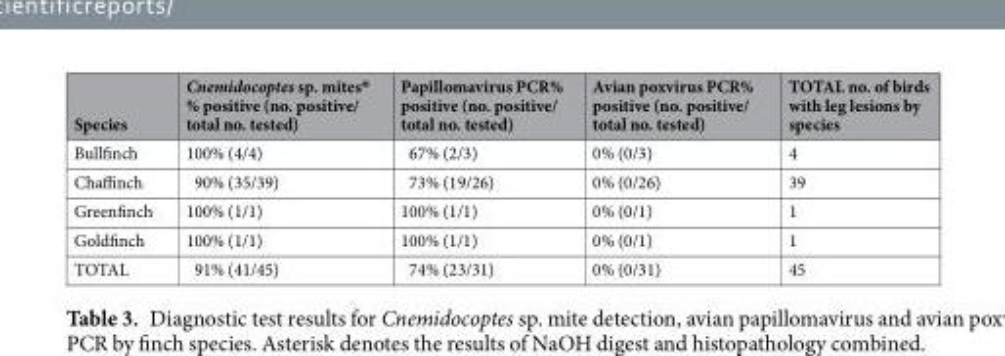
<table><thead><tr><td>Species</td><td>Cnemidocoptes sp. mites* % positive (no. positive/ total no. tested)</td><td>Papillomavirus PCR% positive (no. positive/ total no. tested)</td><td>Avian poxvirus PCR% positive (no. positive/ total no. tested)</td><td>TOTAL no. of birds with leg lesions by species</td></tr></thead><tbody><tr><td>Bullfinch</td><td>100% (4/4)</td><td>67% (2/3)</td><td>0% (0/3)</td><td>4</td></tr><tr><td>Chaffinch</td><td>90% (35/39)</td><td>73% (19/26)</td><td>0% (0/26)</td><td>39</td></tr><tr><td>Greenfinch</td><td>100% (1/1)</td><td>100% (1/1)</td><td>0% (0/1)</td><td>1</td></tr><tr><td>Goldfinch</td><td>100% (1/1)</td><td>100% (1/1)</td><td>0% (0/1)</td><td>1</td></tr><tr><td>TOTAL</td><td>91% (41/45)</td><td>74% (23/31)</td><td>0% (0/31)</td><td>45</td></tr></tbody></table>